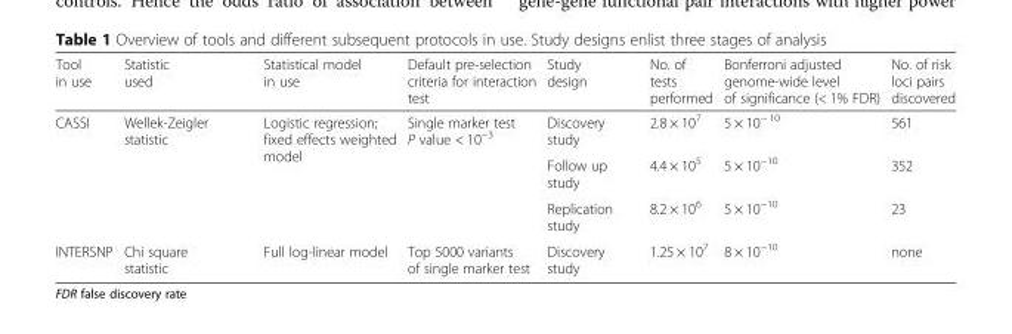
<table><thead><tr><td>Tool in use</td><td>Statistic used</td><td>Statistical model in use</td><td>Default pre-selection criteria for interaction test</td><td>Study design</td><td>No. of tests performed</td><td>Bonferroni adjusted genome-wide level of significance (&lt; 1% FDR)</td><td>No. of risk loci pairs discovered</td></tr></thead><tbody><tr><td rowspan="3">CASSI</td><td rowspan="3">Wellek-Zeigler statistic</td><td rowspan="3">Logistic regression; fixed effects weighted model</td><td rowspan="3">Single marker test P value &lt; 10<sup>−3</sup></td><td>Discovery study</td><td>2.8 × 10<sup>7</sup></td><td>5 × 10<sup>− 10</sup></td><td>561</td></tr><tr><td>Follow up study</td><td>4.4 × 10<sup>5</sup></td><td>5 × 10<sup>−10</sup></td><td>352</td></tr><tr><td>Replication study</td><td>8.2 × 10<sup>6</sup></td><td>5 × 10<sup>−10</sup></td><td>23</td></tr><tr><td>INTERSNP</td><td>Chi square statistic</td><td>Full log-linear model</td><td>Top 5000 variants of single marker test</td><td>Discovery study</td><td>1.25 × 10<sup>7</sup></td><td>8 × 10<sup>−10</sup></td><td>none</td></tr></tbody></table>